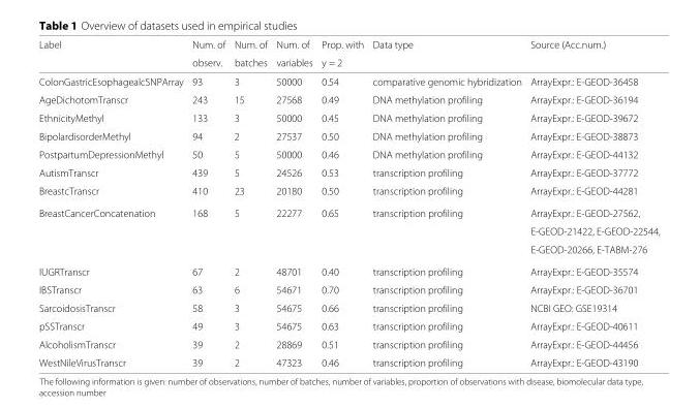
<table><thead><tr><td rowspan="2">Label</td><td rowspan="2">Num. of observ.</td><td rowspan="2">Num. of batches</td><td rowspan="2">Num. of variables</td><td rowspan="2">Prop. with y = 2</td><td rowspan="2">Data type</td><td rowspan="2">Source (Acc.num.)</td></tr><tr></tr></thead><tbody><tr><td>ColonGastricEsophagealcSNPArray</td><td>93</td><td>3</td><td>50000</td><td>0.54</td><td>comparative genomic hybridization</td><td>ArrayExpr.: E-GEOD-36458</td></tr><tr><td>AgeDichotomTranscr</td><td>243</td><td>15</td><td>27568</td><td>0.49</td><td>DNA methylation profiling</td><td>ArrayExpr.: E-GEOD-36194</td></tr><tr><td>EthnicityMethyl</td><td>133</td><td>3</td><td>50000</td><td>0.45</td><td>DNA methylation profiling</td><td>ArrayExpr.: E-GEOD-39672</td></tr><tr><td>BipolardisorderMethyl</td><td>94</td><td>2</td><td>27537</td><td>0.50</td><td>DNA methylation profiling</td><td>ArrayExpr.: E-GEOD-38873</td></tr><tr><td>PostpartumDepressionMethyl</td><td>50</td><td>5</td><td>50000</td><td>0.46</td><td>DNA methylation profiling</td><td>ArrayExpr.: E-GEOD-44132</td></tr><tr><td>AutismTranscr</td><td>439</td><td>5</td><td>24526</td><td>0.53</td><td>transcription profiling</td><td>ArrayExpr.: E-GEOD-37772</td></tr><tr><td>BreastcTranscr</td><td>410</td><td>23</td><td>20180</td><td>0.50</td><td>transcription profiling</td><td>ArrayExpr.: E-GEOD-44281</td></tr><tr><td rowspan="3">BreastCancerConcatenation</td><td>168</td><td>5</td><td>22277</td><td>0.65</td><td>transcription profiling</td><td>ArrayExpr.: E-GEOD-27562,</td></tr><tr><td></td><td></td><td></td><td></td><td></td><td>E-GEOD-21422, E-GEOD-22544,</td></tr><tr><td></td><td></td><td></td><td></td><td></td><td>E-GEOD-20266, E-TABM-276</td></tr><tr><td>IUGRTranscr</td><td>67</td><td>2</td><td>48701</td><td>0.40</td><td>transcription profiling</td><td>ArrayExpr.: E-GEOD-35574</td></tr><tr><td>IBSTranscr</td><td>63</td><td>6</td><td>54671</td><td>0.70</td><td>transcription profiling</td><td>ArrayExpr.: E-GEOD-36701</td></tr><tr><td>SarcoidosisTranscr</td><td>58</td><td>3</td><td>54675</td><td>0.66</td><td>transcription profiling</td><td>NCBI GEO: GSE19314</td></tr><tr><td>pSSTranscr</td><td>49</td><td>3</td><td>54675</td><td>0.63</td><td>transcription profiling</td><td>ArrayExpr.: E-GEOD-40611</td></tr><tr><td>AlcoholismTranscr</td><td>39</td><td>2</td><td>28869</td><td>0.51</td><td>transcription profiling</td><td>ArrayExpr.: E-GEOD-44456</td></tr><tr><td>WestNileVirusTranscr</td><td>39</td><td>2</td><td>47323</td><td>0.46</td><td>transcription profiling</td><td>ArrayExpr.: E-GEOD-43190</td></tr></tbody></table>